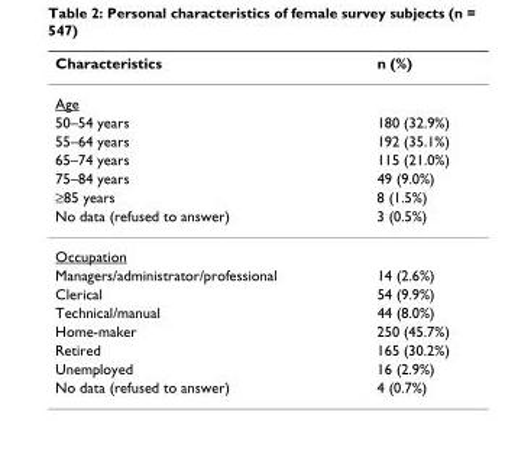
<table><thead><tr><td>Characteristics</td><td>n (%)</td></tr></thead><tbody><tr><td colspan="2">Age</td></tr><tr><td>50–54 years</td><td>180 (32.9%)</td></tr><tr><td>55–64 years</td><td>192 (35.1%)</td></tr><tr><td>65–74 years</td><td>115 (21.0%)</td></tr><tr><td>75–84 years</td><td>49 (9.0%)</td></tr><tr><td>≥85 years</td><td>8 (1.5%)</td></tr><tr><td>No data (refused to answer)</td><td>3 (0.5%)</td></tr><tr><td colspan="2">Occupation</td></tr><tr><td>Managers/administrator/professional</td><td>14 (2.6%)</td></tr><tr><td>Clerical</td><td>54 (9.9%)</td></tr><tr><td>Technical/manual</td><td>44 (8.0%)</td></tr><tr><td>Home-maker</td><td>250 (45.7%)</td></tr><tr><td>Retired</td><td>165 (30.2%)</td></tr><tr><td>Unemployed</td><td>16 (2.9%)</td></tr><tr><td>No data (refused to answer)</td><td>4 (0.7%)</td></tr></tbody></table>